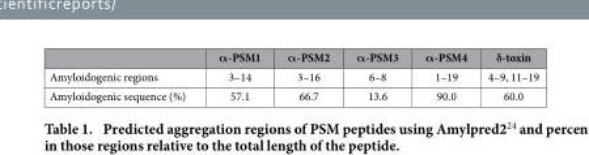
<table><thead><tr><td></td><td>α-PSM1</td><td>α-PSM2</td><td>α-PSM3</td><td>α-PSM4</td><td>δ-toxin</td></tr></thead><tbody><tr><td>Amyloidogenic regions</td><td>3–14</td><td>3–16</td><td>6–8</td><td>1–19</td><td>4–9, 11–19</td></tr><tr><td>Amyloidogenic sequence (%)</td><td>57.1</td><td>66.7</td><td>13.6</td><td>90.0</td><td>60.0</td></tr></tbody></table>